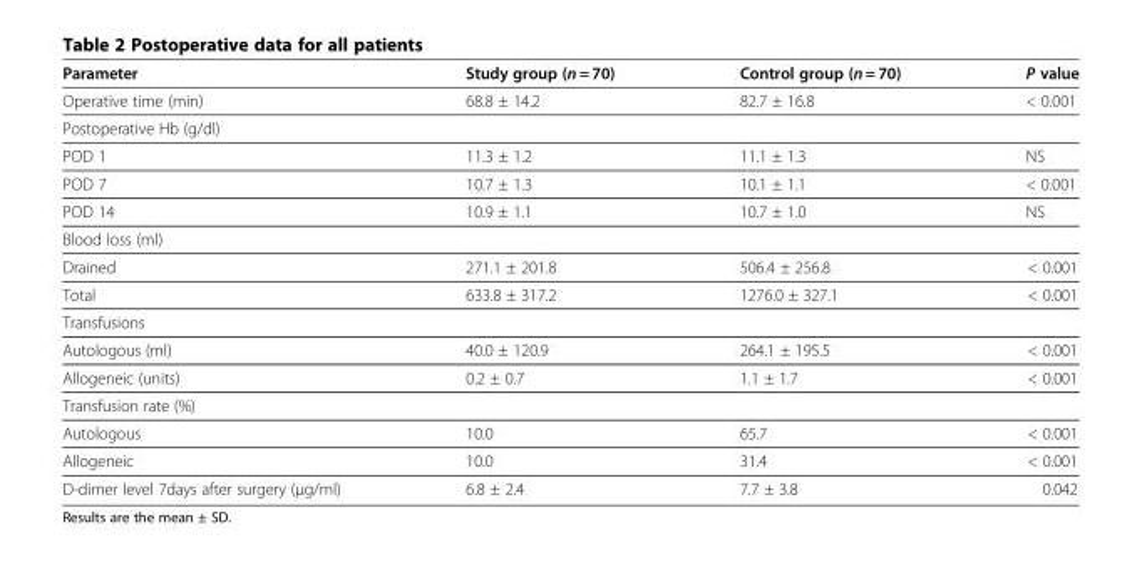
<table><thead><tr><td>Parameter</td><td>Study group (n = 70)</td><td>Control group (n = 70)</td><td>P value</td></tr></thead><tbody><tr><td>Operative time (min)</td><td>68.8 ± 14.2</td><td>82.7 ± 16.8</td><td>&lt; 0.001</td></tr><tr><td colspan="4">Postoperative Hb (g/dl)</td></tr><tr><td>POD 1</td><td>11.3 ± 1.2</td><td>11.1 ± 1.3</td><td>NS</td></tr><tr><td>POD 7</td><td>10.7 ± 1.3</td><td>10.1 ± 1.1</td><td>&lt; 0.001</td></tr><tr><td>POD 14</td><td>10.9 ± 1.1</td><td>10.7 ± 1.0</td><td>NS</td></tr><tr><td colspan="4">Blood loss (ml)</td></tr><tr><td>Drained</td><td>271.1 ± 201.8</td><td>506.4 ± 256.8</td><td>&lt; 0.001</td></tr><tr><td>Total</td><td>633.8 ± 317.2</td><td>1276.0 ± 327.1</td><td>&lt; 0.001</td></tr><tr><td colspan="4">Transfusions</td></tr><tr><td>Autologous (ml)</td><td>40.0 ± 120.9</td><td>264.1 ± 195.5</td><td>&lt; 0.001</td></tr><tr><td>Allogeneic (units)</td><td>0.2 ± 0.7</td><td>1.1 ± 1.7</td><td>&lt; 0.001</td></tr><tr><td colspan="4">Transfusion rate (%)</td></tr><tr><td>Autologous</td><td>10.0</td><td>65.7</td><td>&lt; 0.001</td></tr><tr><td>Allogeneic</td><td>10.0</td><td>31.4</td><td>&lt; 0.001</td></tr><tr><td>D-dimer level 7days after surgery (μg/ml)</td><td>6.8 ± 2.4</td><td>7.7 ± 3.8</td><td>0.042</td></tr></tbody></table>